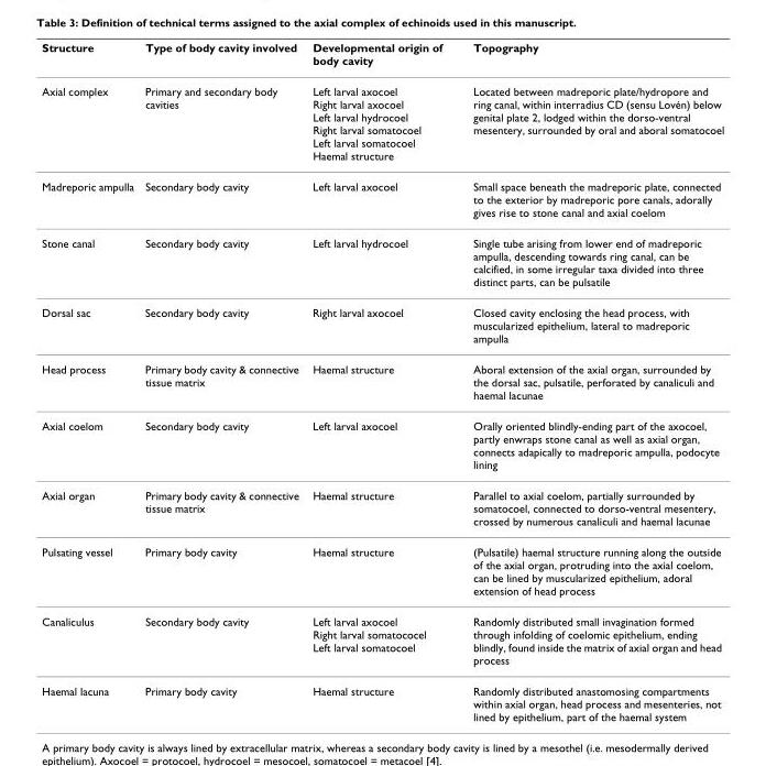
<table><thead><tr><td>Structure</td><td>Type of body cavity involved</td><td>Developmental origin of body cavity</td><td>Topography</td></tr></thead><tbody><tr><td>Axial complex</td><td>Primary and secondary body cavities</td><td>Left larval axocoel Right larval axocoel Left larval hydrocoel Right larval somatocoel Left larval somatocoel Haemal structure</td><td>Located between madreporic plate/hydropore and ring canal, within interradius CD (sensu Lovén) below genital plate 2, lodged within the dorso-ventral mesentery, surrounded by oral and aboral somatocoel</td></tr><tr><td>Madreporic ampulla</td><td>Secondary body cavity</td><td>Left larval axocoel</td><td>Small space beneath the madreporic plate, connected to the exterior by madreporic pore canals, adorally gives rise to stone canal and axial coelom</td></tr><tr><td>Stone canal</td><td>Secondary body cavity</td><td>Left larval hydrocoel</td><td>Single tube arising from lower end of madreporic ampulla, descending towards ring canal, can be calcified, in some irregular taxa divided into three distinct parts, can be pulsatile</td></tr><tr><td>Dorsal sac</td><td>Secondary body cavity</td><td>Right larval axocoel</td><td>Closed cavity enclosing the head process, with muscularized epithelium, lateral to madreporic ampulla</td></tr><tr><td>Head process</td><td>Primary body cavity &amp; connective tissue matrix</td><td>Haemal structure</td><td>Aboral extension of the axial organ, surrounded by the dorsal sac, pulsatile, perforated by canaliculi and haemal lacunae</td></tr><tr><td>Axial coelom</td><td>Secondary body cavity</td><td>Left larval axocoel</td><td>Orally oriented blindly-ending part of the axocoel, partly enwraps stone canal as well as axial organ, connects adapically to madreporic ampulla, podocyte lining</td></tr><tr><td>Axial organ</td><td>Primary body cavity &amp; connective tissue matrix</td><td>Haemal structure</td><td>Parallel to axial coelom, partially surrounded by somatocoel, connected to dorso-ventral mesentery, crossed by numerous canaliculi and haemal lacunae</td></tr><tr><td>Pulsating vessel</td><td>Primary body cavity</td><td>Haemal structure</td><td>(Pulsatile) haemal structure running along the outside of the axial organ, protruding into the axial coelom, can be lined by muscularized epithelium, adoral extension of head process</td></tr><tr><td>Canaliculus</td><td>Secondary body cavity</td><td>Left larval axocoel Right larval somatococel Left larval somatocoel</td><td>Randomly distributed small invagination formed through infolding of coelomic epithelium, ending blindly, found inside the matrix of axial organ and head process</td></tr><tr><td>Haemal lacuna</td><td>Primary body cavity</td><td>Haemal structure</td><td>Randomly distributed anastomosing compartments within axial organ, head process and mesenteries, not lined by epithelium, part of the haemal system</td></tr></tbody></table>